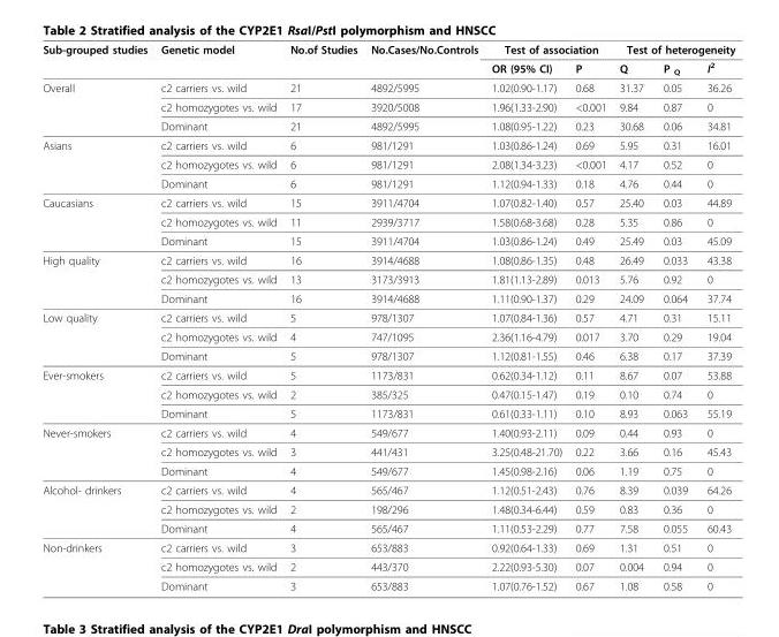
<table><thead><tr><td rowspan="2">Sub-grouped studies</td><td rowspan="2">Genetic model</td><td rowspan="2">No.of Studies</td><td rowspan="2">No.Cases/No.Controls</td><td colspan="2">Test of association</td><td colspan="3">Test of heterogeneity</td></tr><tr><td>OR (95% CI)</td><td>P</td><td>Q</td><td>P <sub>Q</sub></td><td>I<sup>2</sup></td></tr></thead><tbody><tr><td rowspan="3">Overall</td><td>c2 carriers vs. wild</td><td>21</td><td>4892/5995</td><td>1.02(0.90-1.17)</td><td>0.68</td><td>31.37</td><td>0.05</td><td>36.26</td></tr><tr><td>c2 homozygotes vs. wild</td><td>17</td><td>3920/5008</td><td>1.96(1.33-2.90)</td><td>&lt;0.001</td><td>9.84</td><td>0.87</td><td>0</td></tr><tr><td>Dominant</td><td>21</td><td>4892/5995</td><td>1.08(0.95-1.22)</td><td>0.23</td><td>30.68</td><td>0.06</td><td>34.81</td></tr><tr><td rowspan="3">Asians</td><td>c2 carriers vs. wild</td><td>6</td><td>981/1291</td><td>1.03(0.86-1.24)</td><td>0.69</td><td>5.95</td><td>0.31</td><td>16.01</td></tr><tr><td>c2 homozygotes vs. wild</td><td>6</td><td>981/1291</td><td>2.08(1.34-3.23)</td><td>&lt;0.001</td><td>4.17</td><td>0.52</td><td>0</td></tr><tr><td>Dominant</td><td>6</td><td>981/1291</td><td>1.12(0.94-1.33)</td><td>0.18</td><td>4.76</td><td>0.44</td><td>0</td></tr><tr><td rowspan="3">Caucasians</td><td>c2 carriers vs. wild</td><td>15</td><td>3911/4704</td><td>1.07(0.82-1.40)</td><td>0.57</td><td>25.40</td><td>0.03</td><td>44.89</td></tr><tr><td>c2 homozygotes vs. wild</td><td>11</td><td>2939/3717</td><td>1.58(0.68-3.68)</td><td>0.28</td><td>5.35</td><td>0.86</td><td>0</td></tr><tr><td>Dominant</td><td>15</td><td>3911/4704</td><td>1.03(0.86-1.24)</td><td>0.49</td><td>25.49</td><td>0.03</td><td>45.09</td></tr><tr><td rowspan="3">High quality</td><td>c2 carriers vs. wild</td><td>16</td><td>3914/4688</td><td>1.08(0.86-1.35)</td><td>0.48</td><td>26.49</td><td>0.033</td><td>43.38</td></tr><tr><td>c2 homozygotes vs. wild</td><td>13</td><td>3173/3913</td><td>1.81(1.13-2.89)</td><td>0.013</td><td>5.76</td><td>0.92</td><td>0</td></tr><tr><td>Dominant</td><td>16</td><td>3914/4688</td><td>1.11(0.90-1.37)</td><td>0.29</td><td>24.09</td><td>0.064</td><td>37.74</td></tr><tr><td rowspan="3">Low quality</td><td>c2 carriers vs. wild</td><td>5</td><td>978/1307</td><td>1.07(0.84-1.36)</td><td>0.57</td><td>4.71</td><td>0.31</td><td>15.11</td></tr><tr><td>c2 homozygotes vs. wild</td><td>4</td><td>747/1095</td><td>2.36(1.16-4.79)</td><td>0.017</td><td>3.70</td><td>0.29</td><td>19.04</td></tr><tr><td>Dominant</td><td>5</td><td>978/1307</td><td>1.12(0.81-1.55)</td><td>0.46</td><td>6.38</td><td>0.17</td><td>37.39</td></tr><tr><td rowspan="3">Ever-smokers</td><td>c2 carriers vs. wild</td><td>5</td><td>1173/831</td><td>0.62(0.34-1.12)</td><td>0.11</td><td>8.67</td><td>0.07</td><td>53.88</td></tr><tr><td>c2 homozygotes vs. wild</td><td>2</td><td>385/325</td><td>0.47(0.15-1.47)</td><td>0.19</td><td>0.10</td><td>0.74</td><td>0</td></tr><tr><td>Dominant</td><td>5</td><td>1173/831</td><td>0.61(0.33-1.11)</td><td>0.10</td><td>8.93</td><td>0.063</td><td>55.19</td></tr><tr><td rowspan="3">Never-smokers</td><td>c2 carriers vs. wild</td><td>4</td><td>549/677</td><td>1.40(0.93-2.11)</td><td>0.09</td><td>0.44</td><td>0.93</td><td>0</td></tr><tr><td>c2 homozygotes vs. wild</td><td>3</td><td>441/431</td><td>3.25(0.48-21.70)</td><td>0.22</td><td>3.66</td><td>0.16</td><td>45.43</td></tr><tr><td>Dominant</td><td>4</td><td>549/677</td><td>1.45(0.98-2.16)</td><td>0.06</td><td>1.19</td><td>0.75</td><td>0</td></tr><tr><td rowspan="3">Alcohol- drinkers</td><td>c2 carriers vs. wild</td><td>4</td><td>565/467</td><td>1.12(0.51-2.43)</td><td>0.76</td><td>8.39</td><td>0.039</td><td>64.26</td></tr><tr><td>c2 homozygotes vs. wild</td><td>2</td><td>198/296</td><td>1.48(0.34-6.44)</td><td>0.59</td><td>0.83</td><td>0.36</td><td>0</td></tr><tr><td>Dominant</td><td>4</td><td>565/467</td><td>1.11(0.53-2.29)</td><td>0.77</td><td>7.58</td><td>0.055</td><td>60.43</td></tr><tr><td rowspan="3">Non-drinkers</td><td>c2 carriers vs. wild</td><td>3</td><td>653/883</td><td>0.92(0.64-1.33)</td><td>0.69</td><td>1.31</td><td>0.51</td><td>0</td></tr><tr><td>c2 homozygotes vs. wild</td><td>2</td><td>443/370</td><td>2.22(0.93-5.30)</td><td>0.07</td><td>0.004</td><td>0.94</td><td>0</td></tr><tr><td>Dominant</td><td>3</td><td>653/883</td><td>1.07(0.76-1.52)</td><td>0.67</td><td>1.08</td><td>0.58</td><td>0</td></tr></tbody></table>